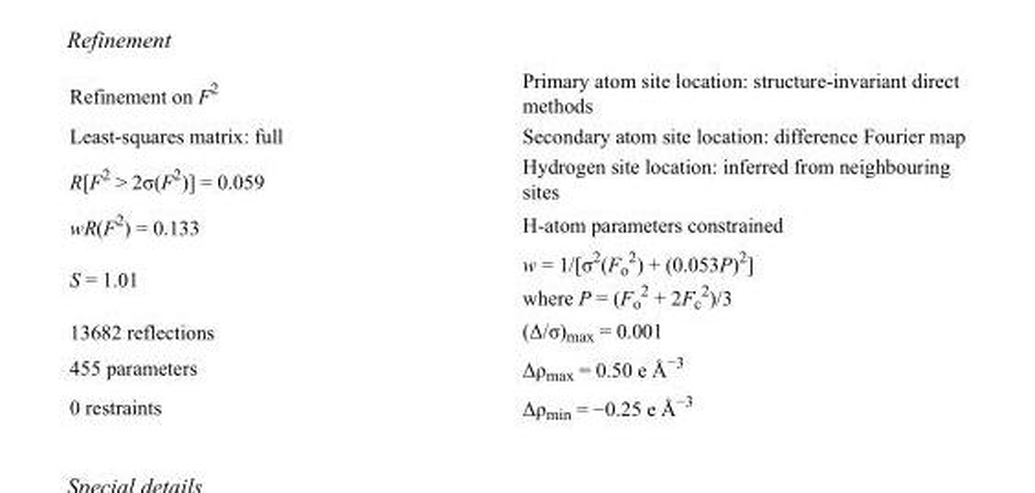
<table><tbody><tr><td>Refinement on F<sup>2</sup></td><td>Primary atom site location: structure-invariant direct methods</td></tr><tr><td>Least-squares matrix: full</td><td>Secondary atom site location: difference Fourier map</td></tr><tr><td>R[F<sup>2</sup> &gt; 2σ(F<sup>2</sup>)] = 0.059</td><td>Hydrogen site location: inferred from neighbouring sites</td></tr><tr><td>wR(F<sup>2</sup>) = 0.133</td><td>H-atom parameters constrained</td></tr><tr><td>S = 1.01</td><td>w = 1/[σ<sup>2</sup>(F<sub>o</sub> <sup>2</sup>) + (0.053P)<sup>2</sup>] where P = (F<sub>o</sub> <sup>2</sup> + 2F<sub>c</sub> <sup>2</sup>)/3</td></tr><tr><td>13682 reflections</td><td>(Δ/σ)<sub>max</sub> = 0.001</td></tr><tr><td>455 parameters</td><td>Δρ<sub>max</sub> = 0.50 e Å<sup>−3</sup></td></tr><tr><td>0 restraints</td><td>Δρ<sub>min</sub> = −0.25 e Å<sup>−3</sup></td></tr></tbody></table>